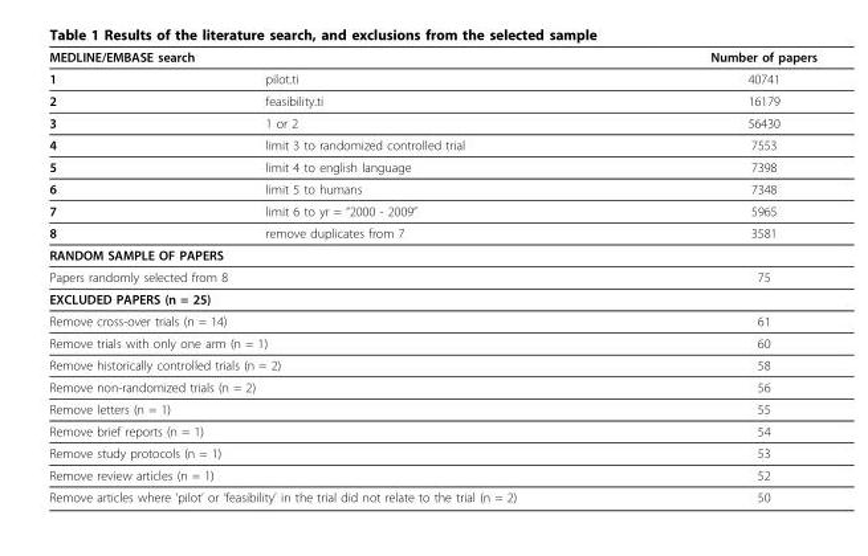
<table><thead><tr><td colspan="2">MEDLINE/EMBASE search</td><td rowspan="2">Number of papers 40741</td></tr><tr><td>1</td><td>pilot.ti</td></tr></thead><tbody><tr><td>2</td><td>feasibility.ti</td><td>16179</td></tr><tr><td>3</td><td>1 or 2</td><td>56430</td></tr><tr><td>4</td><td>limit 3 to randomized controlled trial</td><td>7553</td></tr><tr><td>5</td><td>limit 4 to english language</td><td>7398</td></tr><tr><td>6</td><td>limit 5 to humans</td><td>7348</td></tr><tr><td>7</td><td>limit 6 to yr = “2000 - 2009”</td><td>5965</td></tr><tr><td>8</td><td>remove duplicates from 7</td><td>3581</td></tr><tr><td colspan="3">RANDOM SAMPLE OF PAPERS</td></tr><tr><td colspan="2">Papers randomly selected from 8</td><td>75</td></tr><tr><td colspan="3">EXCLUDED PAPERS (n = 25)</td></tr><tr><td colspan="2">Remove cross-over trials (n = 14)</td><td>61</td></tr><tr><td colspan="2">Remove trials with only one arm (n = 1)</td><td>60</td></tr><tr><td colspan="2">Remove historically controlled trials (n = 2)</td><td>58</td></tr><tr><td colspan="2">Remove non-randomized trials (n = 2)</td><td>56</td></tr><tr><td colspan="2">Remove letters (n = 1)</td><td>55</td></tr><tr><td colspan="2">Remove brief reports (n = 1)</td><td>54</td></tr><tr><td colspan="2">Remove study protocols (n = 1)</td><td>53</td></tr><tr><td colspan="2">Remove review articles (n = 1)</td><td>52</td></tr><tr><td colspan="2">Remove articles where ‘pilot’ or ‘feasibility’ in the trial did not relate to the trial (n = 2)</td><td>50</td></tr></tbody></table>